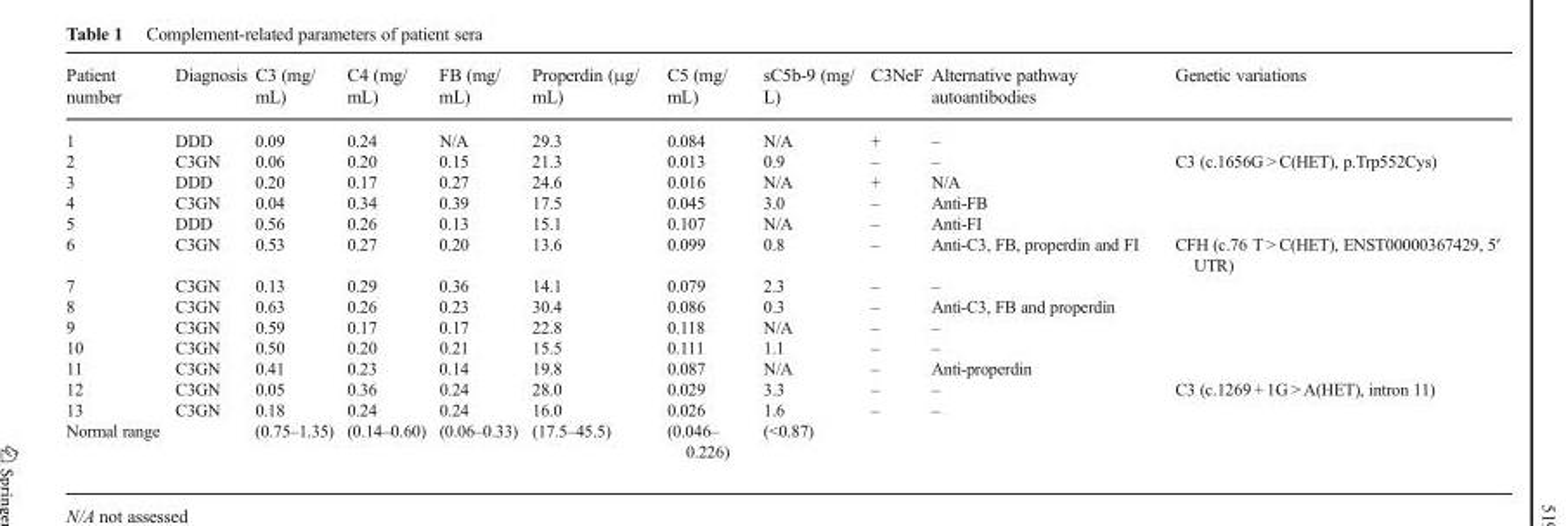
<table><thead><tr><td>Patient number</td><td>Diagnosis</td><td>C3 (mg/ mL)</td><td>C4 (mg/ mL)</td><td>FB (mg/ mL)</td><td>Properdin (μg/ mL)</td><td>C5 (mg/ mL)</td><td>sC5b-9 (mg/ L)</td><td>C3NeF</td><td>Alternative pathway autoantibodies</td><td>Genetic variations</td></tr></thead><tbody><tr><td>1</td><td>DDD</td><td>0.09</td><td>0.24</td><td>N/A</td><td>29.3</td><td>0.084</td><td>N/A</td><td>+</td><td>–</td><td></td></tr><tr><td>2</td><td>C3GN</td><td>0.06</td><td>0.20</td><td>0.15</td><td>21.3</td><td>0.013</td><td>0.9</td><td>–</td><td>–</td><td>C3 (c.1656G &gt; C(HET), p.Trp552Cys)</td></tr><tr><td>3</td><td>DDD</td><td>0.20</td><td>0.17</td><td>0.27</td><td>24.6</td><td>0.016</td><td>N/A</td><td>+</td><td>N/A</td><td></td></tr><tr><td>4</td><td>C3GN</td><td>0.04</td><td>0.34</td><td>0.39</td><td>17.5</td><td>0.045</td><td>3.0</td><td>–</td><td>Anti-FB</td><td></td></tr><tr><td>5</td><td>DDD</td><td>0.56</td><td>0.26</td><td>0.13</td><td>15.1</td><td>0.107</td><td>N/A</td><td>–</td><td>Anti-FI</td><td></td></tr><tr><td>6</td><td>C3GN</td><td>0.53</td><td>0.27</td><td>0.20</td><td>13.6</td><td>0.099</td><td>0.8</td><td>–</td><td>Anti-C3, FB, properdin and FI</td><td>CFH (c.76 T &gt; C(HET), ENST00000367429, 5′ UTR)</td></tr><tr><td>7</td><td>C3GN</td><td>0.13</td><td>0.29</td><td>0.36</td><td>14.1</td><td>0.079</td><td>2.3</td><td>–</td><td>–</td><td></td></tr><tr><td>8</td><td>C3GN</td><td>0.63</td><td>0.26</td><td>0.23</td><td>30.4</td><td>0.086</td><td>0.3</td><td>–</td><td>Anti-C3, FB and properdin</td><td></td></tr><tr><td>9</td><td>C3GN</td><td>0.59</td><td>0.17</td><td>0.17</td><td>22.8</td><td>0.118</td><td>N/A</td><td>–</td><td>–</td><td></td></tr><tr><td>10</td><td>C3GN</td><td>0.50</td><td>0.20</td><td>0.21</td><td>15.5</td><td>0.111</td><td>1.1</td><td>–</td><td>–</td><td></td></tr><tr><td>11</td><td>C3GN</td><td>0.41</td><td>0.23</td><td>0.14</td><td>19.8</td><td>0.087</td><td>N/A</td><td>–</td><td>Anti-properdin</td><td></td></tr><tr><td>12</td><td>C3GN</td><td>0.05</td><td>0.36</td><td>0.24</td><td>28.0</td><td>0.029</td><td>3.3</td><td>–</td><td>–</td><td>C3 (c.1269 + 1G &gt; A(HET), intron 11)</td></tr><tr><td>13</td><td>C3GN</td><td>0.18</td><td>0.24</td><td>0.24</td><td>16.0</td><td>0.026</td><td>1.6</td><td>–</td><td>–</td><td></td></tr><tr><td>Normal range</td><td></td><td>(0.75–1.35)</td><td>(0.14–0.60)</td><td>(0.06–0.33)</td><td>(17.5–45.5)</td><td>(0.046– 0.226)</td><td>(&lt;0.87)</td><td></td><td></td><td></td></tr></tbody></table>